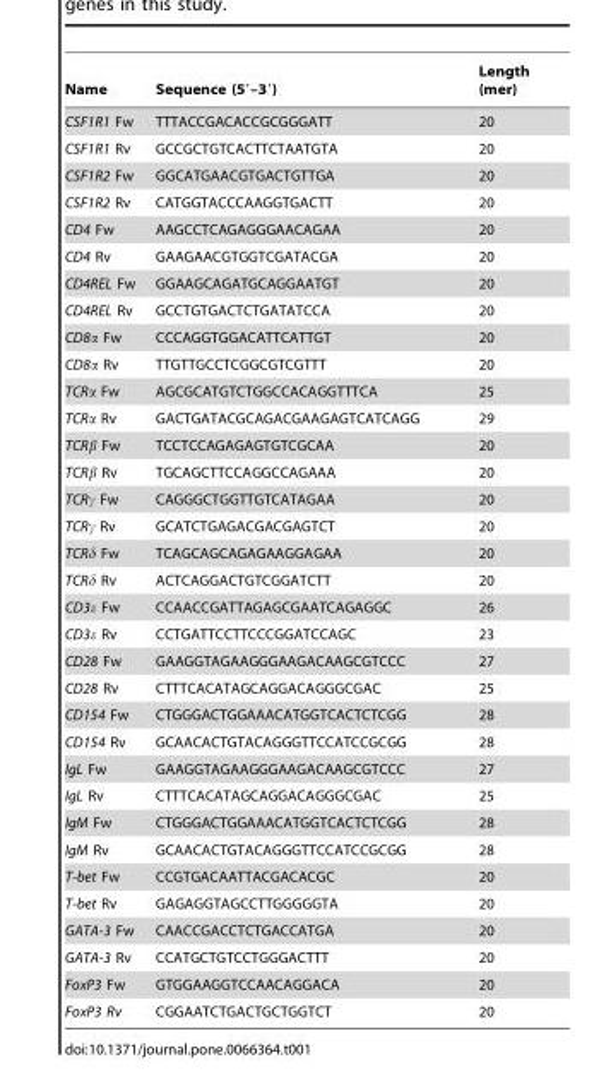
<table><thead><tr><td>Name</td><td>Sequence (5′–3′)</td><td>Length (mer)</td></tr></thead><tbody><tr><td>CSF1R1 Fw</td><td>TTTACCGACACCGCGGGATT</td><td>20</td></tr><tr><td>CSF1R1 Rv</td><td>GCCGCTGTCACTTCTAATGTA</td><td>20</td></tr><tr><td>CSF1R2 Fw</td><td>GGCATGAACGTGACTGTTGA</td><td>20</td></tr><tr><td>CSF1R2 Rv</td><td>CATGGTACCCAAGGTGACTT</td><td>20</td></tr><tr><td>CD4 Fw</td><td>AAGCCTCAGAGGGAACAGAA</td><td>20</td></tr><tr><td>CD4 Rv</td><td>GAAGAACGTGGTCGATACGA</td><td>20</td></tr><tr><td>CD4REL Fw</td><td>GGAAGCAGATGCAGGAATGT</td><td>20</td></tr><tr><td>CD4REL Rv</td><td>GCCTGTGACTCTGATATCCA</td><td>20</td></tr><tr><td>CD8α Fw</td><td>CCCAGGTGGACATTCATTGT</td><td>20</td></tr><tr><td>CD8α Rv</td><td>TTGTTGCCTCGGCGTCGTTT</td><td>20</td></tr><tr><td>TCRα Fw</td><td>AGCGCATGTCTGGCCACAGGTTTCA</td><td>25</td></tr><tr><td>TCRα Rv</td><td>GACTGATACGCAGACGAAGAGTCATCAGG</td><td>29</td></tr><tr><td>TCRβ Fw</td><td>TCCTCCAGAGAGTGTCGCAA</td><td>20</td></tr><tr><td>TCRβ Rv</td><td>TGCAGCTTCCAGGCCAGAAA</td><td>20</td></tr><tr><td>TCRγ Fw</td><td>CAGGGCTGGTTGTCATAGAA</td><td>20</td></tr><tr><td>TCRγ Rv</td><td>GCATCTGAGACGACGAGTCT</td><td>20</td></tr><tr><td>TCRδ Fw</td><td>TCAGCAGCAGAGAAGGAGAA</td><td>20</td></tr><tr><td>TCRδ Rv</td><td>ACTCAGGACTGTCGGATCTT</td><td>20</td></tr><tr><td>CD3ε Fw</td><td>CCAACCGATTAGAGCGAATCAGAGGC</td><td>26</td></tr><tr><td>CD3ε Rv</td><td>CCTGATTCCTTCCCGGATCCAGC</td><td>23</td></tr><tr><td>CD28 Fw</td><td>GAAGGTAGAAGGGAAGACAAGCGTCCC</td><td>27</td></tr><tr><td>CD28 Rv</td><td>CTTTCACATAGCAGGACAGGGCGAC</td><td>25</td></tr><tr><td>CD154 Fw</td><td>CTGGGACTGGAAACATGGTCACTCTCGG</td><td>28</td></tr><tr><td>CD154 Rv</td><td>GCAACACTGTACAGGGTTCCATCCGCGG</td><td>28</td></tr><tr><td>IgL Fw</td><td>GAAGGTAGAAGGGAAGACAAGCGTCCC</td><td>27</td></tr><tr><td>IgL Rv</td><td>CTTTCACATAGCAGGACAGGGCGAC</td><td>25</td></tr><tr><td>IgM Fw</td><td>CTGGGACTGGAAACATGGTCACTCTCGG</td><td>28</td></tr><tr><td>IgM Rv</td><td>GCAACACTGTACAGGGTTCCATCCGCGG</td><td>28</td></tr><tr><td>T-bet Fw</td><td>CCGTGACAATTACGACACGC</td><td>20</td></tr><tr><td>T-bet Rv</td><td>GAGAGGTAGCCTTGGGGGTA</td><td>20</td></tr><tr><td>GATA-3 Fw</td><td>CAACCGACCTCTGACCATGA</td><td>20</td></tr><tr><td>GATA-3 Rv</td><td>CCATGCTGTCCTGGGACTTT</td><td>20</td></tr><tr><td>FoxP3 Fw</td><td>GTGGAAGGTCCAACAGGACA</td><td>20</td></tr><tr><td>FoxP3 Rv</td><td>CGGAATCTGACTGCTGGTCT</td><td>20</td></tr></tbody></table>